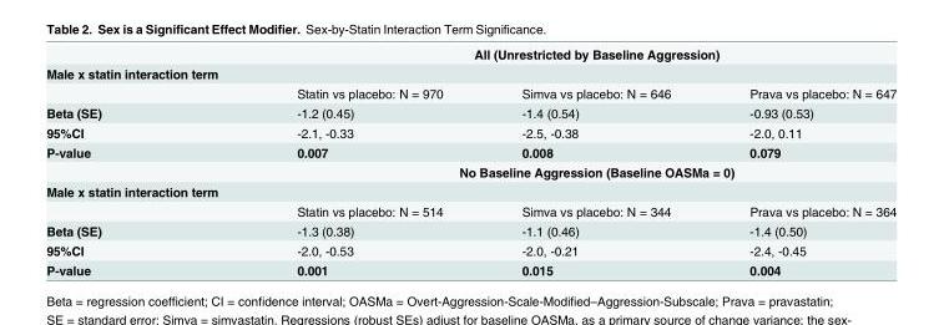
<table><thead><tr><td rowspan="3">Male x statin interaction term</td><td rowspan="2" colspan="3">All (Unrestricted by Baseline Aggression)</td></tr><tr></tr><tr><td>Statin vs placebo: N = 970</td><td>Simva vs placebo: N = 646</td><td>Prava vs placebo: N = 647</td></tr></thead><tbody><tr><td>Beta (SE)</td><td>-1.2 (0.45)</td><td>-1.4 (0.54)</td><td>-0.93 (0.53)</td></tr><tr><td>95%CI</td><td>-2.1, -0.33</td><td>-2.5, -0.38</td><td>-2.0, 0.11</td></tr><tr><td rowspan="2">P-value</td><td>0.007</td><td>0.008</td><td>0.079</td></tr><tr><td colspan="3">No Baseline Aggression (Baseline OASMa = 0)</td></tr><tr><td colspan="4">Male x statin interaction term</td></tr><tr><td></td><td>Statin vs placebo: N = 514</td><td>Simva vs placebo: N = 344</td><td>Prava vs placebo: N = 364</td></tr><tr><td>Beta (SE)</td><td>-1.3 (0.38)</td><td>-1.1 (0.46)</td><td>-1.4 (0.50)</td></tr><tr><td>95%CI</td><td>-2.0, -0.53</td><td>-2.0, -0.21</td><td>-2.4, -0.45</td></tr><tr><td>P-value</td><td>0.001</td><td>0.015</td><td>0.004</td></tr></tbody></table>